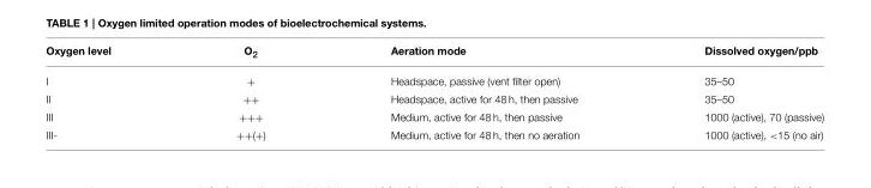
<table><thead><tr><td>Oxygen level</td><td>O<sub>2</sub></td><td>Aeration mode</td><td>Dissolved oxygen/ppb</td></tr></thead><tbody><tr><td>I</td><td>+</td><td>Headspace, passive (vent filter open)</td><td>35–50</td></tr><tr><td>II</td><td>++</td><td>Headspace, active for 48 h, then passive</td><td>35–50</td></tr><tr><td>III</td><td>+++</td><td>Medium, active for 48 h, then passive</td><td>1000 (active), 70 (passive)</td></tr><tr><td>III-</td><td>++(+)</td><td>Medium, active for 48 h, then no aeration</td><td>1000 (active), &lt;15 (no air)</td></tr></tbody></table>